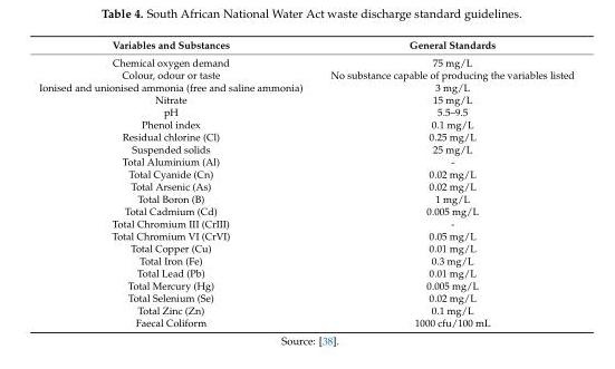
<table><thead><tr><td>Variables and Substances</td><td>General Standards</td></tr></thead><tbody><tr><td>Chemical oxygen demand</td><td>75 mg/L</td></tr><tr><td>Colour, odour or taste</td><td>No substance capable of producing the variables listed</td></tr><tr><td>Ionised and unionised ammonia (free and saline ammonia)</td><td>3 mg/L</td></tr><tr><td>Nitrate</td><td>15 mg/L</td></tr><tr><td>pH</td><td>5.5–9.5</td></tr><tr><td>Phenol index</td><td>0.1 mg/L</td></tr><tr><td>Residual chlorine (Cl)</td><td>0.25 mg/L</td></tr><tr><td>Suspended solids</td><td>25 mg/L</td></tr><tr><td>Total Aluminium (Al)</td><td>-</td></tr><tr><td>Total Cyanide (Cn)</td><td>0.02 mg/L</td></tr><tr><td>Total Arsenic (As)</td><td>0.02 mg/L</td></tr><tr><td>Total Boron (B)</td><td>1 mg/L</td></tr><tr><td>Total Cadmium (Cd)</td><td>0.005 mg/L</td></tr><tr><td>Total Chromium III (CrIII)</td><td>-</td></tr><tr><td>Total Chromium VI (CrVI)</td><td>0.05 mg/L</td></tr><tr><td>Total Copper (Cu)</td><td>0.01 mg/L</td></tr><tr><td>Total Iron (Fe)</td><td>0.3 mg/L</td></tr><tr><td>Total Lead (Pb)</td><td>0.01 mg/L</td></tr><tr><td>Total Mercury (Hg)</td><td>0.005 mg/L</td></tr><tr><td>Total Selenium (Se)</td><td>0.02 mg/L</td></tr><tr><td>Total Zinc (Zn)</td><td>0.1 mg/L</td></tr><tr><td>Faecal Coliform</td><td>1000 cfu/100 mL</td></tr></tbody></table>